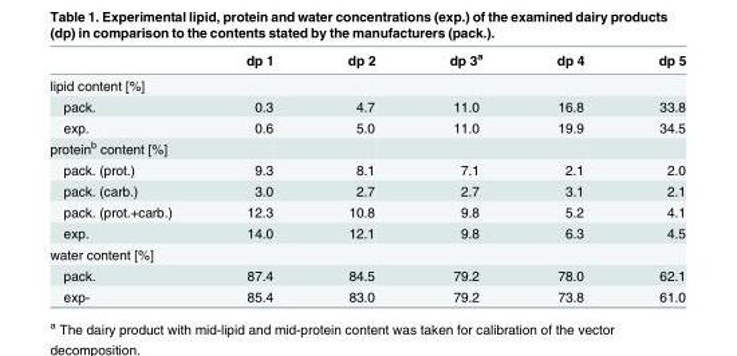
<table><thead><tr><td></td><td>dp 1</td><td>dp 2</td><td>dp 3<sup>a</sup></td><td>dp 4</td><td>dp 5</td></tr></thead><tbody><tr><td colspan="6">lipid content [%]</td></tr><tr><td>pack.</td><td>0.3</td><td>4.7</td><td>11.0</td><td>16.8</td><td>33.8</td></tr><tr><td>exp.</td><td>0.6</td><td>5.0</td><td>11.0</td><td>19.9</td><td>34.5</td></tr><tr><td colspan="6">protein<sup>b</sup> content [%]</td></tr><tr><td>pack. (prot.)</td><td>9.3</td><td>8.1</td><td>7.1</td><td>2.1</td><td>2.0</td></tr><tr><td>pack. (carb.)</td><td>3.0</td><td>2.7</td><td>2.7</td><td>3.1</td><td>2.1</td></tr><tr><td>pack. (prot.+carb.)</td><td>12.3</td><td>10.8</td><td>9.8</td><td>5.2</td><td>4.1</td></tr><tr><td>exp.</td><td>14.0</td><td>12.1</td><td>9.8</td><td>6.3</td><td>4.5</td></tr><tr><td colspan="6">water content [%]</td></tr><tr><td>pack.</td><td>87.4</td><td>84.5</td><td>79.2</td><td>78.0</td><td>62.1</td></tr><tr><td>exp-</td><td>85.4</td><td>83.0</td><td>79.2</td><td>73.8</td><td>61.0</td></tr></tbody></table>